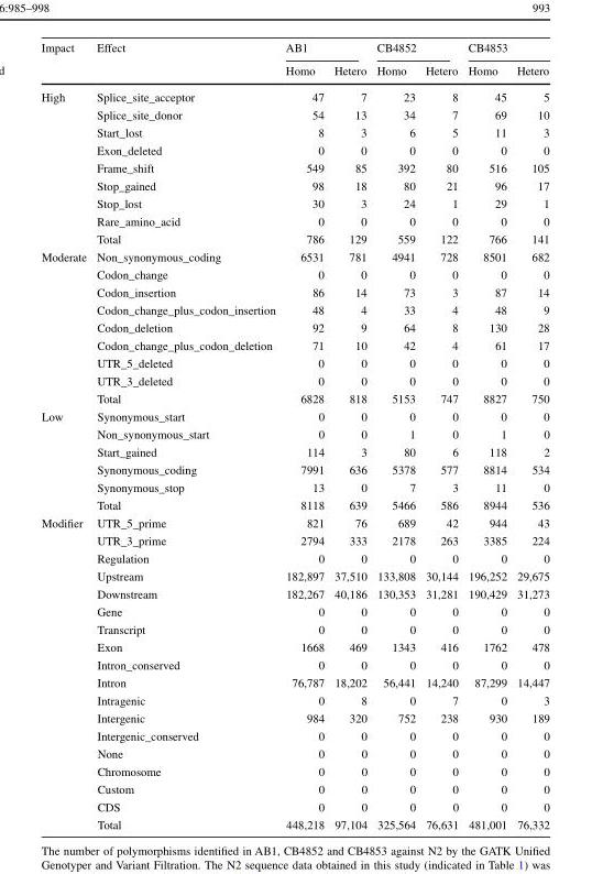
<table><thead><tr><td rowspan="2">Impact</td><td rowspan="2">Effect</td><td colspan="2">AB1</td><td colspan="2">CB4852</td><td colspan="2">CB4853</td></tr><tr><td>Homo</td><td>Hetero</td><td>Homo</td><td>Hetero</td><td>Homo</td><td>Hetero</td></tr></thead><tbody><tr><td rowspan="9">High</td><td>Splice_site_acceptor</td><td>47</td><td>7</td><td>23</td><td>8</td><td>45</td><td>5</td></tr><tr><td>Splice_site_donor</td><td>54</td><td>13</td><td>34</td><td>7</td><td>69</td><td>10</td></tr><tr><td>Start_lost</td><td>8</td><td>3</td><td>6</td><td>5</td><td>11</td><td>3</td></tr><tr><td>Exon_deleted</td><td>0</td><td>0</td><td>0</td><td>0</td><td>0</td><td>0</td></tr><tr><td>Frame_shift</td><td>549</td><td>85</td><td>392</td><td>80</td><td>516</td><td>105</td></tr><tr><td>Stop_gained</td><td>98</td><td>18</td><td>80</td><td>21</td><td>96</td><td>17</td></tr><tr><td>Stop_lost</td><td>30</td><td>3</td><td>24</td><td>1</td><td>29</td><td>1</td></tr><tr><td>Rare_amino_acid</td><td>0</td><td>0</td><td>0</td><td>0</td><td>0</td><td>0</td></tr><tr><td>Total</td><td>786</td><td>129</td><td>559</td><td>122</td><td>766</td><td>141</td></tr><tr><td rowspan="9">Moderate</td><td>Non_synonymous_coding</td><td>6531</td><td>781</td><td>4941</td><td>728</td><td>8501</td><td>682</td></tr><tr><td>Codon_change</td><td>0</td><td>0</td><td>0</td><td>0</td><td>0</td><td>0</td></tr><tr><td>Codon_insertion</td><td>86</td><td>14</td><td>73</td><td>3</td><td>87</td><td>14</td></tr><tr><td>Codon_change_plus_codon_insertion</td><td>48</td><td>4</td><td>33</td><td>4</td><td>48</td><td>9</td></tr><tr><td>Codon_deletion</td><td>92</td><td>9</td><td>64</td><td>8</td><td>130</td><td>28</td></tr><tr><td>Codon_change_plus_codon_deletion</td><td>71</td><td>10</td><td>42</td><td>4</td><td>61</td><td>17</td></tr><tr><td>UTR_5_deleted</td><td>0</td><td>0</td><td>0</td><td>0</td><td>0</td><td>0</td></tr><tr><td>UTR_3_deleted</td><td>0</td><td>0</td><td>0</td><td>0</td><td>0</td><td>0</td></tr><tr><td>Total</td><td>6828</td><td>818</td><td>5153</td><td>747</td><td>8827</td><td>750</td></tr><tr><td rowspan="6">Low</td><td>Synonymous_start</td><td>0</td><td>0</td><td>0</td><td>0</td><td>0</td><td>0</td></tr><tr><td>Non_synonymous_start</td><td>0</td><td>0</td><td>1</td><td>0</td><td>1</td><td>0</td></tr><tr><td>Start_gained</td><td>114</td><td>3</td><td>80</td><td>6</td><td>118</td><td>2</td></tr><tr><td>Synonymous_coding</td><td>7991</td><td>636</td><td>5378</td><td>577</td><td>8814</td><td>534</td></tr><tr><td>Synonymous_stop</td><td>13</td><td>0</td><td>7</td><td>3</td><td>11</td><td>0</td></tr><tr><td>Total</td><td>8118</td><td>639</td><td>5466</td><td>586</td><td>8944</td><td>536</td></tr><tr><td rowspan="18">Modifier</td><td>UTR_5_prime</td><td>821</td><td>76</td><td>689</td><td>42</td><td>944</td><td>43</td></tr><tr><td>UTR_3_prime</td><td>2794</td><td>333</td><td>2178</td><td>263</td><td>3385</td><td>224</td></tr><tr><td>Regulation</td><td>0</td><td>0</td><td>0</td><td>0</td><td>0</td><td>0</td></tr><tr><td>Upstream</td><td>182,897</td><td>37,510</td><td>133,808</td><td>30,144</td><td>196,252</td><td>29,675</td></tr><tr><td>Downstream</td><td>182,267</td><td>40,186</td><td>130,353</td><td>31,281</td><td>190,429</td><td>31,273</td></tr><tr><td>Gene</td><td>0</td><td>0</td><td>0</td><td>0</td><td>0</td><td>0</td></tr><tr><td>Transcript</td><td>0</td><td>0</td><td>0</td><td>0</td><td>0</td><td>0</td></tr><tr><td>Exon</td><td>1668</td><td>469</td><td>1343</td><td>416</td><td>1762</td><td>478</td></tr><tr><td>Intron_conserved</td><td>0</td><td>0</td><td>0</td><td>0</td><td>0</td><td>0</td></tr><tr><td>Intron</td><td>76,787</td><td>18,202</td><td>56,441</td><td>14,240</td><td>87,299</td><td>14,447</td></tr><tr><td>Intragenic</td><td>0</td><td>8</td><td>0</td><td>7</td><td>0</td><td>3</td></tr><tr><td>Intergenic</td><td>984</td><td>320</td><td>752</td><td>238</td><td>930</td><td>189</td></tr><tr><td>Intergenic_conserved</td><td>0</td><td>0</td><td>0</td><td>0</td><td>0</td><td>0</td></tr><tr><td>None</td><td>0</td><td>0</td><td>0</td><td>0</td><td>0</td><td>0</td></tr><tr><td>Chromosome</td><td>0</td><td>0</td><td>0</td><td>0</td><td>0</td><td>0</td></tr><tr><td>Custom</td><td>0</td><td>0</td><td>0</td><td>0</td><td>0</td><td>0</td></tr><tr><td>CDS</td><td>0</td><td>0</td><td>0</td><td>0</td><td>0</td><td>0</td></tr><tr><td>Total</td><td>448,218</td><td>97,104</td><td>325,564</td><td>76,631</td><td>481,001</td><td>76,332</td></tr></tbody></table>